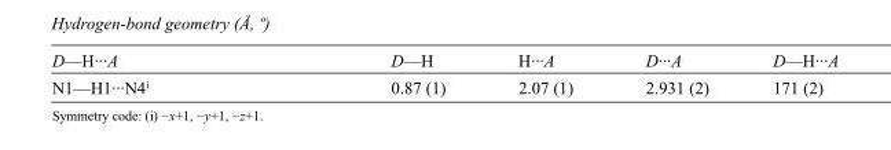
<table><tbody><tr><td>D—H···A</td><td>D—H</td><td>H···A</td><td>D···A</td><td>D—H···A</td></tr><tr><td>N1—H1···N4<sup>i</sup></td><td>0.87 (1)</td><td>2.07 (1)</td><td>2.931 (2)</td><td>171 (2)</td></tr></tbody></table>